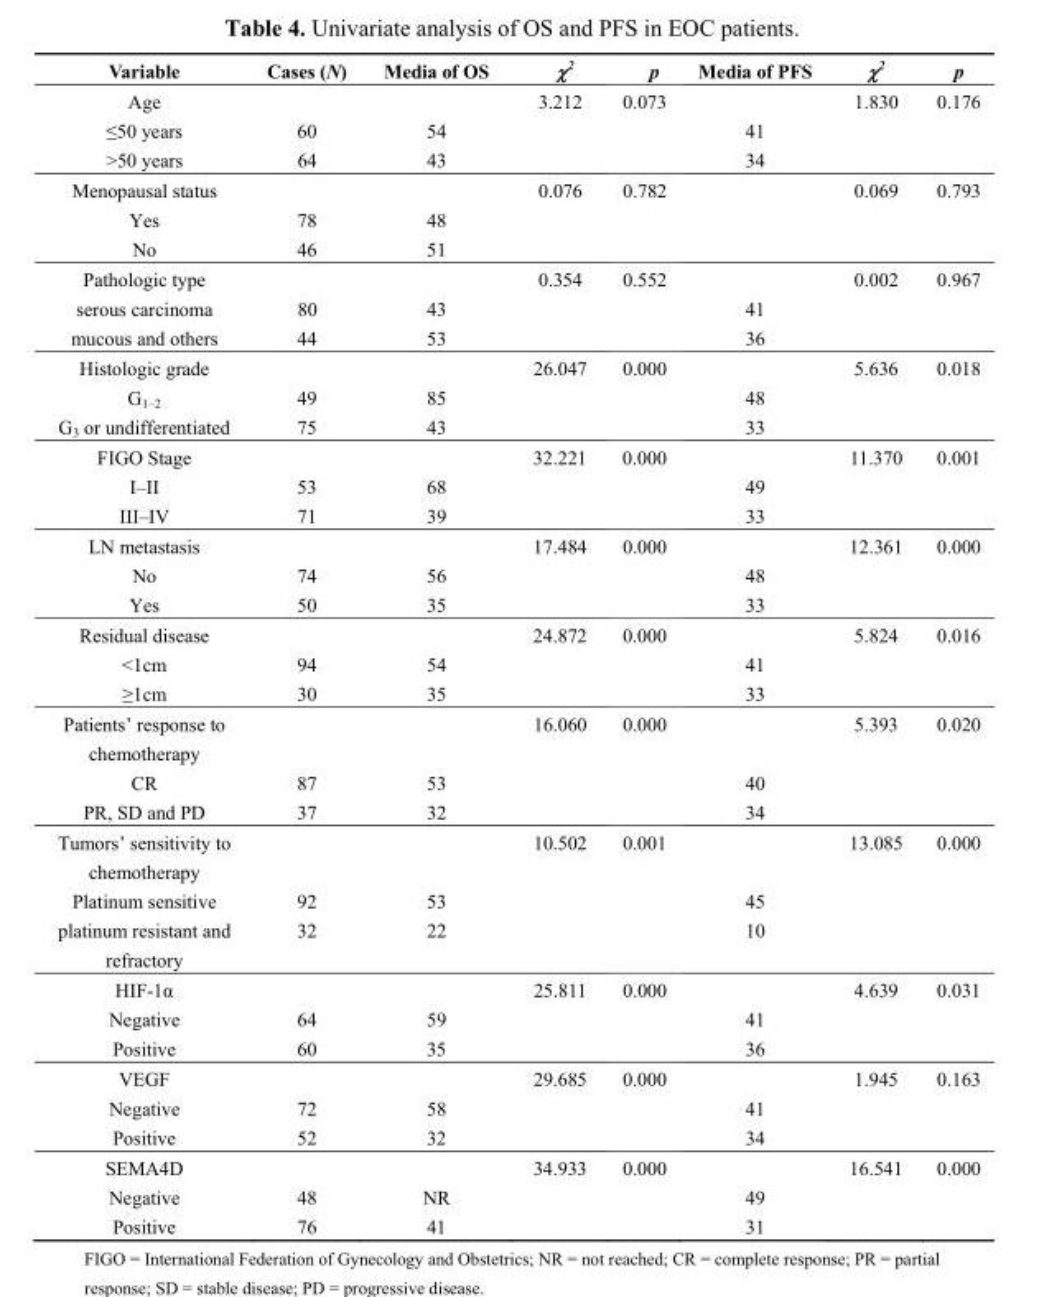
<table><thead><tr><td>Variable</td><td>Cases (N)</td><td>Media of OS</td><td>χ<sup>2</sup></td><td>p</td><td>Media of PFS</td><td>χ<sup>2</sup></td><td>p</td></tr></thead><tbody><tr><td>Age</td><td></td><td></td><td>3.212</td><td>0.073</td><td></td><td>1.830</td><td>0.176</td></tr><tr><td>≤50 years</td><td>60</td><td>54</td><td></td><td></td><td>41</td><td></td><td></td></tr><tr><td>&gt;50 years</td><td>64</td><td>43</td><td></td><td></td><td>34</td><td></td><td></td></tr><tr><td>Menopausal status</td><td></td><td></td><td>0.076</td><td>0.782</td><td></td><td>0.069</td><td>0.793</td></tr><tr><td>Yes</td><td>78</td><td>48</td><td></td><td></td><td></td><td></td><td></td></tr><tr><td>No</td><td>46</td><td>51</td><td></td><td></td><td></td><td></td><td></td></tr><tr><td>Pathologic type</td><td></td><td></td><td>0.354</td><td>0.552</td><td></td><td>0.002</td><td>0.967</td></tr><tr><td>serous carcinoma</td><td>80</td><td>43</td><td></td><td></td><td>41</td><td></td><td></td></tr><tr><td>mucous and others</td><td>44</td><td>53</td><td></td><td></td><td>36</td><td></td><td></td></tr><tr><td>Histologic grade</td><td></td><td></td><td>26.047</td><td>0.000</td><td></td><td>5.636</td><td>0.018</td></tr><tr><td>G<sub>1–2</sub></td><td>49</td><td>85</td><td></td><td></td><td>48</td><td></td><td></td></tr><tr><td>G<sub>3</sub> or undifferentiated</td><td>75</td><td>43</td><td></td><td></td><td>33</td><td></td><td></td></tr><tr><td>FIGO Stage</td><td></td><td></td><td>32.221</td><td>0.000</td><td></td><td>11.370</td><td>0.001</td></tr><tr><td>I–II</td><td>53</td><td>68</td><td></td><td></td><td>49</td><td></td><td></td></tr><tr><td>III–IV</td><td>71</td><td>39</td><td></td><td></td><td>33</td><td></td><td></td></tr><tr><td>LN metastasis</td><td></td><td></td><td>17.484</td><td>0.000</td><td></td><td>12.361</td><td>0.000</td></tr><tr><td>No</td><td>74</td><td>56</td><td></td><td></td><td>48</td><td></td><td></td></tr><tr><td>Yes</td><td>50</td><td>35</td><td></td><td></td><td>33</td><td></td><td></td></tr><tr><td>Residual disease</td><td></td><td></td><td>24.872</td><td>0.000</td><td></td><td>5.824</td><td>0.016</td></tr><tr><td>&lt;1cm</td><td>94</td><td>54</td><td></td><td></td><td>41</td><td></td><td></td></tr><tr><td>≥1cm</td><td>30</td><td>35</td><td></td><td></td><td>33</td><td></td><td></td></tr><tr><td>Patients’ response to chemotherapy</td><td></td><td></td><td>16.060</td><td>0.000</td><td></td><td>5.393</td><td>0.020</td></tr><tr><td>CR</td><td>87</td><td>53</td><td></td><td></td><td>40</td><td></td><td></td></tr><tr><td>PR, SD and PD</td><td>37</td><td>32</td><td></td><td></td><td>34</td><td></td><td></td></tr><tr><td>Tumors’ sensitivity to chemotherapy</td><td></td><td></td><td>10.502</td><td>0.001</td><td></td><td>13.085</td><td>0.000</td></tr><tr><td>Platinum sensitive</td><td>92</td><td>53</td><td></td><td></td><td>45</td><td></td><td></td></tr><tr><td>platinum resistant and refractory</td><td>32</td><td>22</td><td></td><td></td><td>10</td><td></td><td></td></tr><tr><td>HIF-1α</td><td></td><td></td><td>25.811</td><td>0.000</td><td></td><td>4.639</td><td>0.031</td></tr><tr><td>Negative</td><td>64</td><td>59</td><td></td><td></td><td>41</td><td></td><td></td></tr><tr><td>Positive</td><td>60</td><td>35</td><td></td><td></td><td>36</td><td></td><td></td></tr><tr><td>VEGF</td><td></td><td></td><td>29.685</td><td>0.000</td><td></td><td>1.945</td><td>0.163</td></tr><tr><td>Negative</td><td>72</td><td>58</td><td></td><td></td><td>41</td><td></td><td></td></tr><tr><td>Positive</td><td>52</td><td>32</td><td></td><td></td><td>34</td><td></td><td></td></tr><tr><td>SEMA4D</td><td></td><td></td><td>34.933</td><td>0.000</td><td></td><td>16.541</td><td>0.000</td></tr><tr><td>Negative</td><td>48</td><td>NR</td><td></td><td></td><td>49</td><td></td><td></td></tr><tr><td>Positive</td><td>76</td><td>41</td><td></td><td></td><td>31</td><td></td><td></td></tr></tbody></table>